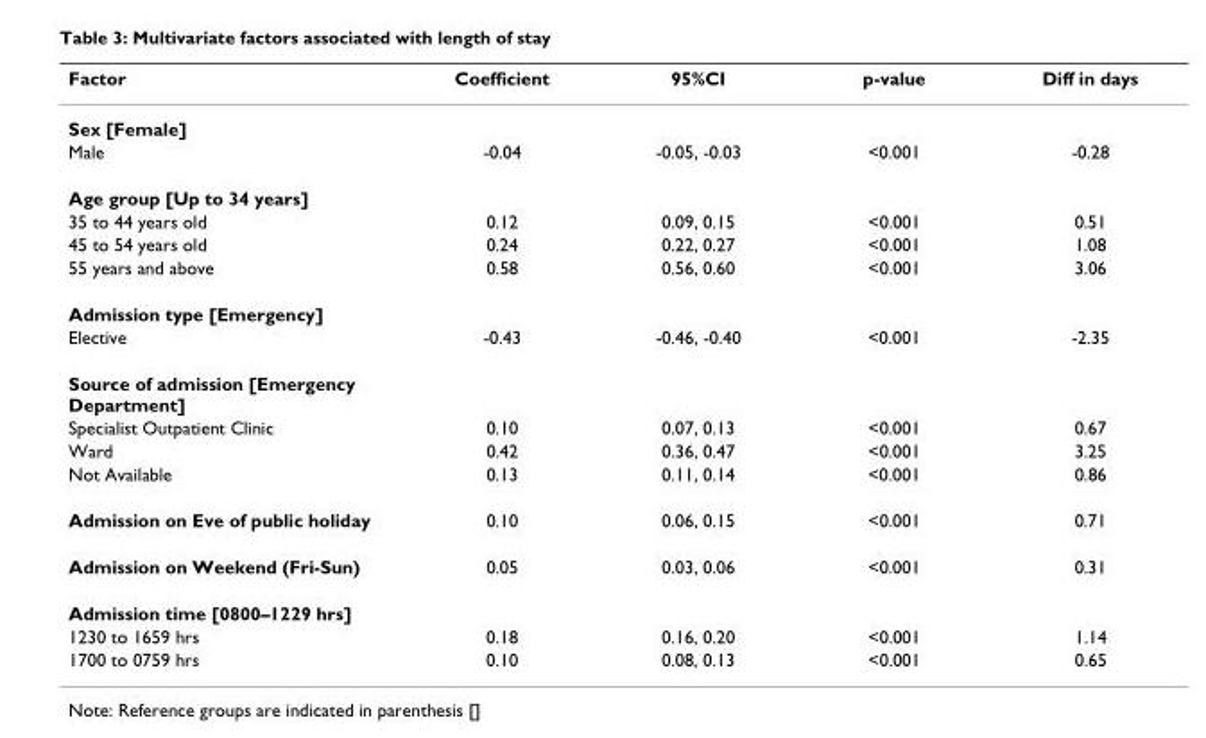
<table><thead><tr><td>Factor</td><td>Coefficient</td><td>95%CI</td><td>p-value</td><td>Diff in days</td></tr></thead><tbody><tr><td colspan="5">Sex [Female]</td></tr><tr><td>Male</td><td>-0.04</td><td>-0.05, -0.03</td><td>&lt;0.001</td><td>-0.28</td></tr><tr><td colspan="5">Age group [Up to 34 years]</td></tr><tr><td>35 to 44 years old</td><td>0.12</td><td>0.09, 0.15</td><td>&lt;0.001</td><td>0.51</td></tr><tr><td>45 to 54 years old</td><td>0.24</td><td>0.22, 0.27</td><td>&lt;0.001</td><td>1.08</td></tr><tr><td>55 years and above</td><td>0.58</td><td>0.56, 0.60</td><td>&lt;0.001</td><td>3.06</td></tr><tr><td colspan="5">Admission type [Emergency]</td></tr><tr><td>Elective</td><td>-0.43</td><td>-0.46, -0.40</td><td>&lt;0.001</td><td>-2.35</td></tr><tr><td colspan="5">Source of admission [Emergency Department]</td></tr><tr><td>Specialist Outpatient Clinic</td><td>0.10</td><td>0.07, 0.13</td><td>&lt;0.001</td><td>0.67</td></tr><tr><td>Ward</td><td>0.42</td><td>0.36, 0.47</td><td>&lt;0.001</td><td>3.25</td></tr><tr><td>Not Available</td><td>0.13</td><td>0.11, 0.14</td><td>&lt;0.001</td><td>0.86</td></tr><tr><td>Admission on Eve of public holiday</td><td>0.10</td><td>0.06, 0.15</td><td>&lt;0.001</td><td>0.71</td></tr><tr><td>Admission on Weekend (Fri-Sun)</td><td>0.05</td><td>0.03, 0.06</td><td>&lt;0.001</td><td>0.31</td></tr><tr><td colspan="5">Admission time [0800–1229 hrs]</td></tr><tr><td>1230 to 1659 hrs</td><td>0.18</td><td>0.16, 0.20</td><td>&lt;0.001</td><td>1.14</td></tr><tr><td>1700 to 0759 hrs</td><td>0.10</td><td>0.08, 0.13</td><td>&lt;0.001</td><td>0.65</td></tr></tbody></table>